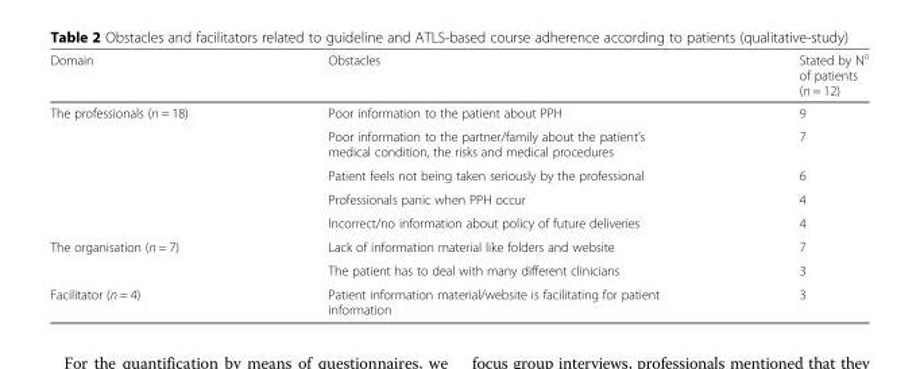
<table><thead><tr><td>Domain</td><td>Obstacles</td><td>Stated by N<sup>o</sup> of patients (n = 12)</td></tr></thead><tbody><tr><td rowspan="5">The professionals (n = 18)</td><td>Poor information to the patient about PPH</td><td>9</td></tr><tr><td>Poor information to the partner/family about the patient’s medical condition, the risks and medical procedures</td><td>7</td></tr><tr><td>Patient feels not being taken seriously by the professional</td><td>6</td></tr><tr><td>Professionals panic when PPH occur</td><td>4</td></tr><tr><td>Incorrect/no information about policy of future deliveries</td><td>4</td></tr><tr><td rowspan="2">The organisation (n = 7)</td><td>Lack of information material like folders and website</td><td>7</td></tr><tr><td>The patient has to deal with many different clinicians</td><td>3</td></tr><tr><td>Facilitator (n = 4)</td><td>Patient information material/website is facilitating for patient information</td><td>3</td></tr></tbody></table>